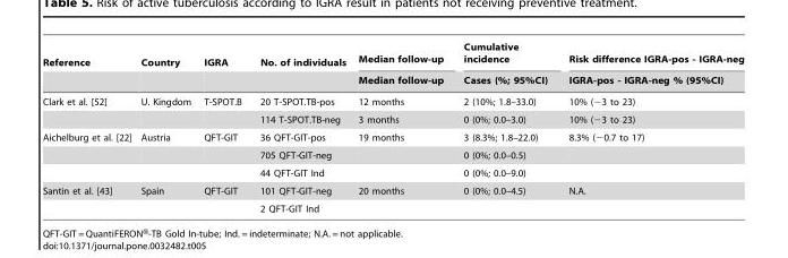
<table><thead><tr><td rowspan="2">Reference</td><td rowspan="2">Country</td><td rowspan="2">IGRA</td><td rowspan="2">No. of individuals</td><td rowspan="2">Median follow-up Median follow-up</td><td rowspan="2">Cumulative incidence Cases (%; 95%CI)</td><td rowspan="2">Risk difference IGRA-pos - IGRA-neg IGRA-pos - IGRA-neg % (95%CI)</td></tr><tr></tr></thead><tbody><tr><td rowspan="2">Clark et al. [52]</td><td>U. Kingdom</td><td>T-SPOT.B</td><td>20 T-SPOT.TB-pos</td><td>12 months</td><td>2 (10%; 1.8–33.0)</td><td>10% (−3 to 23)</td></tr><tr><td></td><td></td><td>114 T-SPOT.TB-neg</td><td>3 months</td><td>0 (0%; 0.0–3.0)</td><td>10% (−3 to 23)</td></tr><tr><td rowspan="3">Aichelburg et al. [22]</td><td>Austria</td><td>QFT-GIT</td><td>36 QFT-GIT-pos</td><td>19 months</td><td>3 (8.3%; 1.8–22.0)</td><td>8.3% (−0.7 to 17)</td></tr><tr><td></td><td></td><td>705 QFT-GIT-neg</td><td></td><td>0 (0%; 0.0–0.5)</td><td></td></tr><tr><td></td><td></td><td>44 QFT-GIT Ind</td><td></td><td>0 (0%; 0.0–9.0)</td><td></td></tr><tr><td rowspan="2">Santin et al. [43]</td><td>Spain</td><td>QFT-GIT</td><td>101 QFT-GIT-neg</td><td>20 months</td><td>0 (0%; 0.0–4.5)</td><td>N.A.</td></tr><tr><td></td><td></td><td>2 QFT-GIT Ind</td><td></td><td></td><td></td></tr></tbody></table>